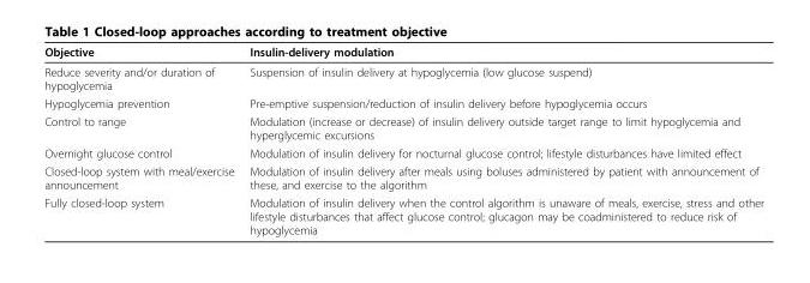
<table><thead><tr><td>Objective</td><td>Insulin-delivery modulation</td></tr></thead><tbody><tr><td>Reduce severity and/or duration of hypoglycemia</td><td>Suspension of insulin delivery at hypoglycemia (low glucose suspend)</td></tr><tr><td>Hypoglycemia prevention</td><td>Pre-emptive suspension/reduction of insulin delivery before hypoglycemia occurs</td></tr><tr><td>Control to range</td><td>Modulation (increase or decrease) of insulin delivery outside target range to limit hypoglycemia and hyperglycemic excursions</td></tr><tr><td>Overnight glucose control</td><td>Modulation of insulin delivery for nocturnal glucose control; lifestyle disturbances have limited effect</td></tr><tr><td>Closed-loop system with meal/exercise announcement</td><td>Modulation of insulin delivery after meals using boluses administered by patient with announcement of these, and exercise to the algorithm</td></tr><tr><td>Fully closed-loop system</td><td>Modulation of insulin delivery when the control algorithm is unaware of meals, exercise, stress and other lifestyle disturbances that affect glucose control; glucagon may be coadministered to reduce risk of hypoglycemia</td></tr></tbody></table>